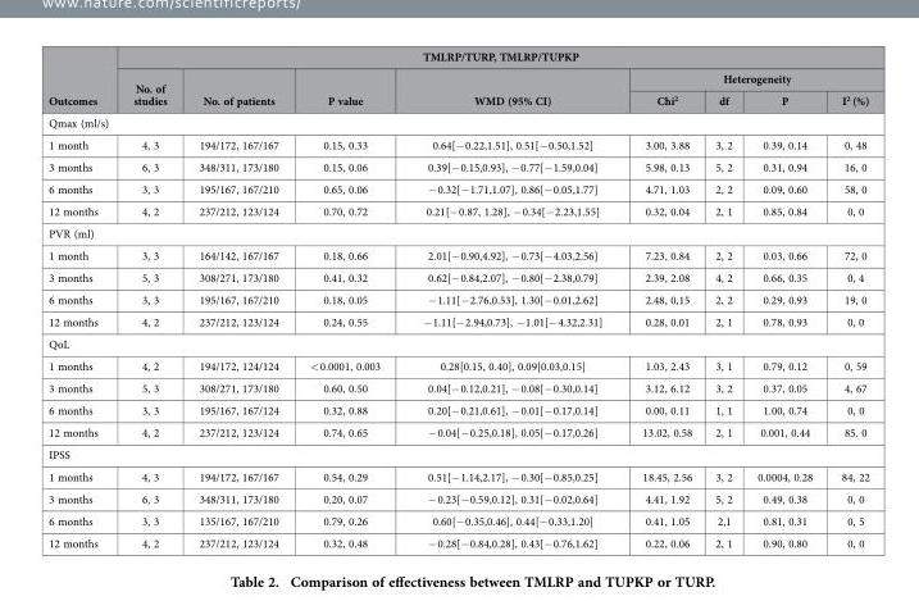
<table><thead><tr><td rowspan="3">Outcomes</td><td colspan="8">TMLRP/TURP, TMLRP/TUPKP</td></tr><tr><td rowspan="2">No. of studies</td><td rowspan="2">No. of patients</td><td rowspan="2">P value</td><td rowspan="2">WMD (95% CI)</td><td colspan="4">Heterogeneity</td></tr><tr><td>Chi<sup>2</sup></td><td>df</td><td>P</td><td>I<sup>2</sup> (%)</td></tr></thead><tbody><tr><td colspan="9">Qmax (ml/s)</td></tr><tr><td>1 month</td><td>4, 3</td><td>194/172, 167/167</td><td>0.15, 0.33</td><td>0.64[− 0.22,1.51], 0.51[− 0.50,1.52]</td><td>3.00, 3.88</td><td>3, 2</td><td>0.39, 0.14</td><td>0, 48</td></tr><tr><td>3 months</td><td>6, 3</td><td>348/311, 173/180</td><td>0.15, 0.06</td><td>0.39[− 0.15,0.93], − 0.77[− 1.59,0.04]</td><td>5.98, 0.13</td><td>5, 2</td><td>0.31, 0.94</td><td>16, 0</td></tr><tr><td>6 months</td><td>3, 3</td><td>195/167, 167/210</td><td>0.65, 0.06</td><td>− 0.32[− 1.71,1.07], 0.86[− 0.05,1.77]</td><td>4.71, 1.03</td><td>2, 2</td><td>0.09, 0.60</td><td>58, 0</td></tr><tr><td>12 months</td><td>4, 2</td><td>237/212, 123/124</td><td>0.70, 0.72</td><td>0.21[− 0.87, 1.28], − 0.34[− 2.23,1.55]</td><td>0.32, 0.04</td><td>2, 1</td><td>0.85, 0.84</td><td>0, 0</td></tr><tr><td colspan="9">PVR (ml)</td></tr><tr><td>1 month</td><td>3, 3</td><td>164/142, 167/167</td><td>0.18, 0.66</td><td>2.01[− 0.90,4.92], − 0.73[− 4.03,2.56]</td><td>7.23, 0.84</td><td>2, 2</td><td>0.03, 0.66</td><td>72, 0</td></tr><tr><td>3 months</td><td>5, 3</td><td>308/271, 173/180</td><td>0.41, 0.32</td><td>0.62[− 0.84,2.07], − 0.80[− 2.38,0.79]</td><td>2.39, 2.08</td><td>4, 2</td><td>0.66, 0.35</td><td>0, 4</td></tr><tr><td>6 months</td><td>3, 3</td><td>195/167, 167/210</td><td>0.18, 0.05</td><td>− 1.11[− 2.76,0.53], 1.30[− 0.01,2.62]</td><td>2.48, 0,15</td><td>2, 2</td><td>0.29, 0.93</td><td>19, 0</td></tr><tr><td>12 months</td><td>4, 2</td><td>237/212, 123/124</td><td>0.24, 0.55</td><td>− 1.11[− 2.94,0.73], − 1.01[− 4.32,2.31]</td><td>0.28, 0.01</td><td>2, 1</td><td>0.78, 0.93</td><td>0, 0</td></tr><tr><td colspan="9">QoL</td></tr><tr><td>1 months</td><td>4, 2</td><td>194/172, 124/124</td><td>&lt; 0.0001, 0.003</td><td>0.28[0.15, 0.40], 0.09[0.03,0.15]</td><td>1.03, 2.43</td><td>3, 1</td><td>0.79, 0.12</td><td>0, 59</td></tr><tr><td>3 months</td><td>5, 3</td><td>308/271, 173/180</td><td>0.60, 0.50</td><td>0.04[− 0.12,0.21], − 0.08[− 0.30,0.14]</td><td>3.12, 6.12</td><td>3, 2</td><td>0.37, 0.05</td><td>4, 67</td></tr><tr><td>6 months</td><td>3, 3</td><td>195/167, 167/124</td><td>0.32, 0.88</td><td>0.20[− 0.21,0.61], − 0.01[− 0.17,0.14]</td><td>0.00, 0.11</td><td>1, 1</td><td>1.00, 0.74</td><td>0, 0</td></tr><tr><td>12 months</td><td>4, 2</td><td>237/212, 123/124</td><td>0.74, 0.65</td><td>− 0.04[− 0.25,0.18], 0.05[− 0.17,0.26]</td><td>13.02, 0.58</td><td>2, 1</td><td>0.001, 0.44</td><td>85. 0</td></tr><tr><td colspan="9">IPSS</td></tr><tr><td>1 months</td><td>4, 3</td><td>194/172, 167/167</td><td>0.54, 0.29</td><td>0.51[− 1.14,2.17], − 0.30[− 0.85,0.25]</td><td>18.45, 2.56</td><td>3, 2</td><td>0.0004, 0.28</td><td>84, 22</td></tr><tr><td>3 months</td><td>6, 3</td><td>348/311, 173/180</td><td>0.20, 0.07</td><td>− 0.23[− 0.59,0.12], 0.31[− 0.02,0.64]</td><td>4.41, 1.92</td><td>5, 2</td><td>0.49, 0.38</td><td>0, 0</td></tr><tr><td>6 months</td><td>3, 3</td><td>135/167, 167/210</td><td>0.79, 0.26</td><td>0.60[− 0.35,0.46], 0.44[− 0.33,1.20]</td><td>0.41, 1.05</td><td>2,1</td><td>0.81, 0.31</td><td>0, 5</td></tr><tr><td>12 months</td><td>4, 2</td><td>237/212, 123/124</td><td>0.32, 0.48</td><td>− 0.28[− 0.84,0.28], 0.43[− 0.76,1.62]</td><td>0.22, 0.06</td><td>2, 1</td><td>0.90, 0.80</td><td>0, 0</td></tr></tbody></table>